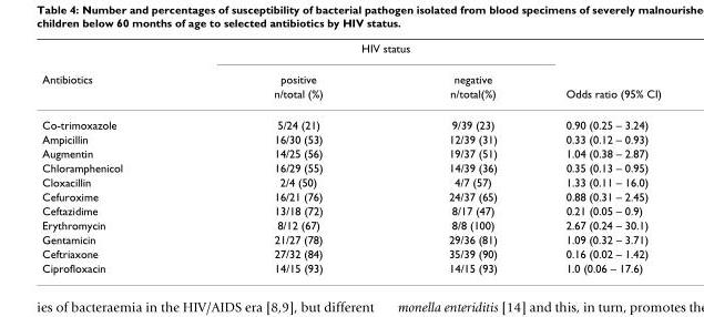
<table><thead><tr><td rowspan="3">Antibiotics</td><td colspan="2">HIV status</td><td rowspan="3">Odds ratio (95% CI)</td></tr><tr><td rowspan="2">positive n/total (%)</td><td rowspan="2">negative n/total(%)</td></tr><tr></tr></thead><tbody><tr><td>Co-trimoxazole</td><td>5/24 (21)</td><td>9/39 (23)</td><td>0.90 (0.25 – 3.24)</td></tr><tr><td>Ampicillin</td><td>16/30 (53)</td><td>12/39 (31)</td><td>0.33 (0.12 – 0.93)</td></tr><tr><td>Augmentin</td><td>14/25 (56)</td><td>19/37 (51)</td><td>1.04 (0.38 – 2.87)</td></tr><tr><td>Chloramphenicol</td><td>16/29 (55)</td><td>14/39 (36)</td><td>0.35 (0.13 – 0.95)</td></tr><tr><td>Cloxacillin</td><td>2/4 (50)</td><td>4/7 (57)</td><td>1.33 (0.11 – 16.0)</td></tr><tr><td>Cefuroxime</td><td>16/21 (76)</td><td>24/37 (65)</td><td>0.88 (0.31 – 2.45)</td></tr><tr><td>Ceftazidime</td><td>13/18 (72)</td><td>8/17 (47)</td><td>0.21 (0.05 – 0.9)</td></tr><tr><td>Erythromycin</td><td>8/12 (67)</td><td>8/8 (100)</td><td>2.67 (0.24 – 30.1)</td></tr><tr><td>Gentamicin</td><td>21/27 (78)</td><td>29/36 (81)</td><td>1.09 (0.32 – 3.71)</td></tr><tr><td>Ceftriaxone</td><td>27/32 (84)</td><td>35/39 (90)</td><td>0.16 (0.02 – 1.42)</td></tr><tr><td>Ciprofloxacin</td><td>14/15 (93)</td><td>14/15 (93)</td><td>1.0 (0.06 – 17.6)</td></tr></tbody></table>